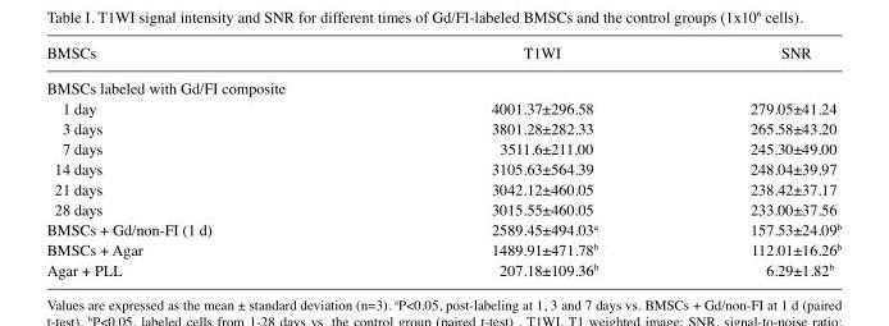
<table><thead><tr><td>BMSCs</td><td>T1WI</td><td>SNR</td></tr></thead><tbody><tr><td colspan="3">BMSCs labeled with Gd/FI composite</td></tr><tr><td>1 day</td><td>4001.37±296.58</td><td>279.05±41.24</td></tr><tr><td>3 days</td><td>3801.28±282.33</td><td>265.58±43.20</td></tr><tr><td>7 days</td><td>3511.6±211.00</td><td>245.30±49.00</td></tr><tr><td>14 days</td><td>3105.63±564.39</td><td>248.04±39.97</td></tr><tr><td>21 days</td><td>3042.12±460.05</td><td>238.42±37.17</td></tr><tr><td>28 days</td><td>3015.55±460.05</td><td>233.00±37.56</td></tr><tr><td>BMSCs + Gd/non‑FI (1 d)</td><td>2589.45±494.03<sup>a</sup></td><td>157.53±24.09<sup>b</sup></td></tr><tr><td>BMSCs + Agar</td><td>1489.91±471.78<sup>b</sup></td><td>112.01±16.26<sup>b</sup></td></tr><tr><td>Agar + PLL</td><td>207.18±109.36<sup>b</sup></td><td>6.29±1.82<sup>b</sup></td></tr></tbody></table>